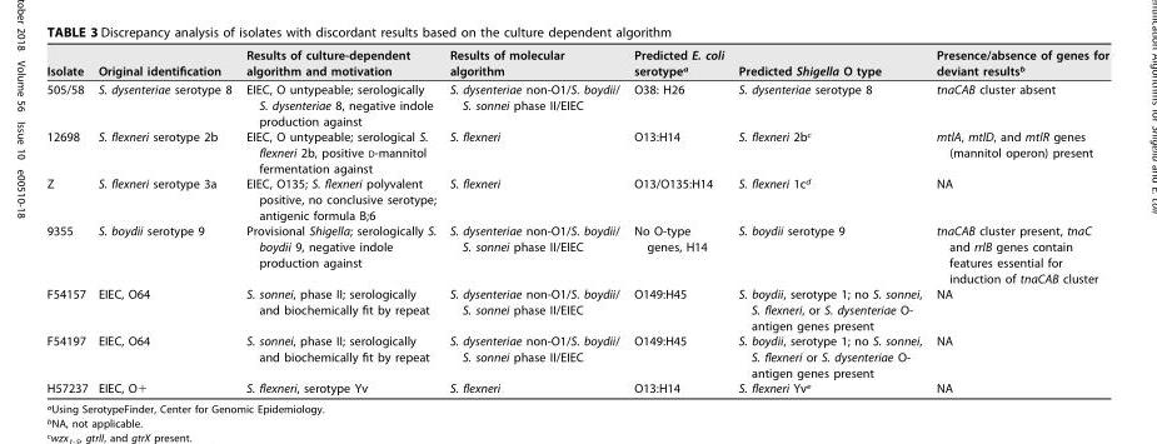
<table><thead><tr><td>Isolate</td><td>Original identification</td><td>Results of culture-dependent algorithm and motivation</td><td>Results of molecular algorithm</td><td>Predicted E. coli serotype<sup>a</sup></td><td>Predicted Shigella O type</td><td>Presence/absence of genes for deviant results<sup>b</sup></td></tr></thead><tbody><tr><td>505/58</td><td>S. dysenteriae serotype 8</td><td>EIEC, O untypeable; serologically S. dysenteriae 8, negative indole production against</td><td>S. dysenteriae non-O1/S. boydii/ S. sonnei phase II/EIEC</td><td>O38: H26</td><td>S. dysenteriae serotype 8</td><td>tnaCAB cluster absent</td></tr><tr><td>12698</td><td>S. flexneri serotype 2b</td><td>EIEC, O untypeable; serological S. flexneri 2b, positive D-mannitol fermentation against</td><td>S. flexneri</td><td>O13:H14</td><td>S. flexneri 2b<sup>c</sup></td><td>mtlA, mtlD, and mtlR genes (mannitol operon) present</td></tr><tr><td>Z</td><td>S. flexneri serotype 3a</td><td>EIEC, O135; S. flexneri polyvalent positive, no conclusive serotype; antigenic formula B;6</td><td>S. flexneri</td><td>O13/O135:H14</td><td>S. flexneri 1c<sup>d</sup></td><td>NA</td></tr><tr><td>9355</td><td>S. boydii serotype 9</td><td>Provisional Shigella; serologically S. boydii 9, negative indole production against</td><td>S. dysenteriae non-O1/S. boydii/ S. sonnei phase II/EIEC</td><td>No O-type genes, H14</td><td>S. boydii serotype 9</td><td>tnaCAB cluster present, tnaC and rrlB genes contain features essential for induction of tnaCAB cluster</td></tr><tr><td>F54157</td><td>EIEC, O64</td><td>S. sonnei, phase II; serologically and biochemically fit by repeat</td><td>S. dysenteriae non-O1/S. boydii/ S. sonnei phase II/EIEC</td><td>O149:H45</td><td>S. boydii, serotype 1; no S. sonnei, S. flexneri, or S. dysenteriae O- antigen genes present</td><td>NA</td></tr><tr><td>F54197</td><td>EIEC, O64</td><td>S. sonnei, phase II; serologically and biochemically fit by repeat</td><td>S. dysenteriae non-O1/S. boydii/ S. sonnei phase II/EIEC</td><td>O149:H45</td><td>S. boydii, serotype 1; no S. sonnei, S. flexneri or S. dysenteriae O- antigen genes present</td><td>NA</td></tr><tr><td>H57237</td><td>EIEC, O+</td><td>S. flexneri, serotype Yv</td><td>S. flexneri</td><td>O13:H14</td><td>S. flexneri Yv<sup>e</sup></td><td>NA</td></tr></tbody></table>